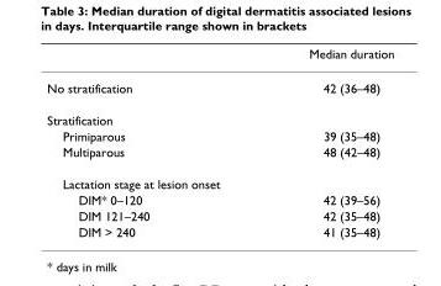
<table><thead><tr><td></td><td>Median duration</td></tr></thead><tbody><tr><td>No stratification</td><td>42 (36–48)</td></tr><tr><td colspan="2">Stratification</td></tr><tr><td>Primiparous</td><td>39 (35–48)</td></tr><tr><td>Multiparous</td><td>48 (42–48)</td></tr><tr><td colspan="2">Lactation stage at lesion onset</td></tr><tr><td>DIM* 0–120</td><td>42 (39–56)</td></tr><tr><td>DIM 121–240</td><td>42 (35–48)</td></tr><tr><td>DIM &gt; 240</td><td>41 (35–48)</td></tr></tbody></table>